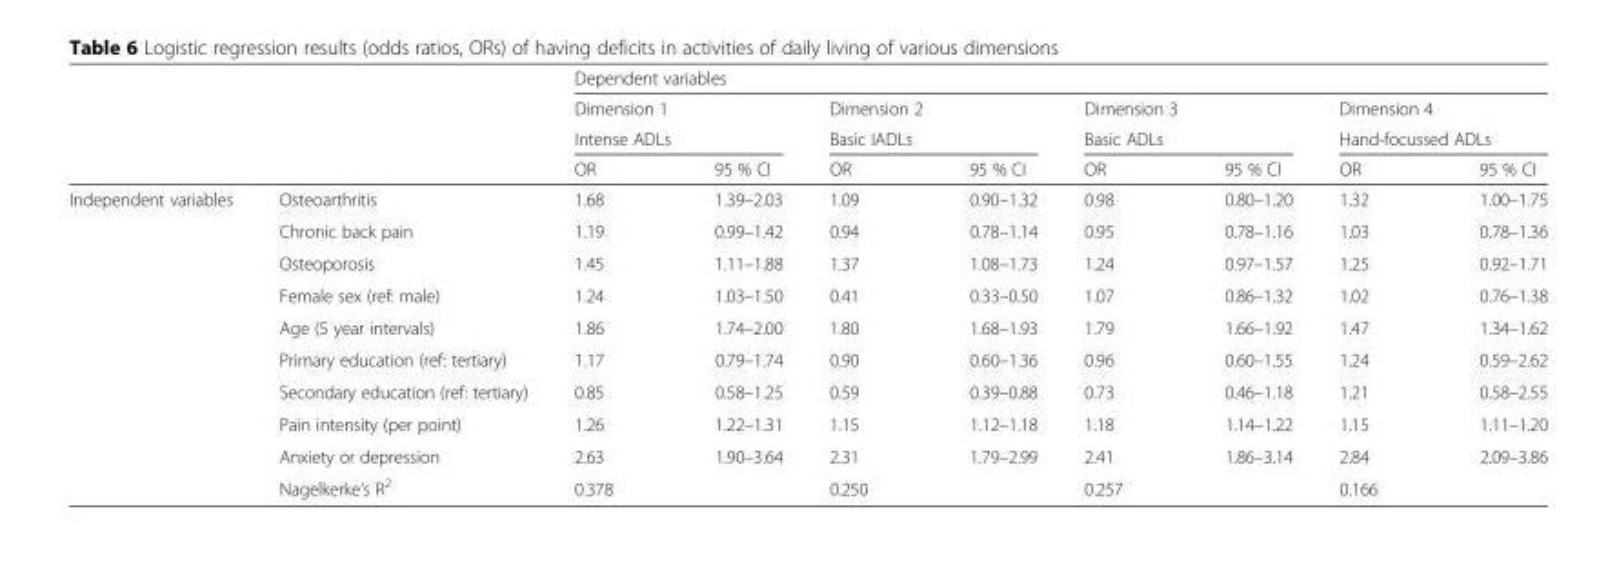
<table><thead><tr><td rowspan="4"></td><td rowspan="4"></td><td colspan="8">Dependent variables</td></tr><tr><td>Dimension 1</td><td></td><td>Dimension 2</td><td></td><td>Dimension 3</td><td></td><td>Dimension 4</td><td></td></tr><tr><td colspan="2">Intense ADLs</td><td colspan="2">Basic IADLs</td><td colspan="2">Basic ADLs</td><td colspan="2">Hand-focussed ADLs</td></tr><tr><td>OR</td><td>95 % CI</td><td>OR</td><td>95 % CI</td><td>OR</td><td>95 % CI</td><td>OR</td><td>95 % CI</td></tr></thead><tbody><tr><td rowspan="10">Independent variables</td><td>Osteoarthritis</td><td>1.68</td><td>1.39–2.03</td><td>1.09</td><td>0.90–1.32</td><td>0.98</td><td>0.80–1.20</td><td>1.32</td><td>1.00–1.75</td></tr><tr><td>Chronic back pain</td><td>1.19</td><td>0.99–1.42</td><td>0.94</td><td>0.78–1.14</td><td>0.95</td><td>0.78–1.16</td><td>1.03</td><td>0.78–1.36</td></tr><tr><td>Osteoporosis</td><td>1.45</td><td>1.11–1.88</td><td>1.37</td><td>1.08–1.73</td><td>1.24</td><td>0.97–1.57</td><td>1.25</td><td>0.92–1.71</td></tr><tr><td>Female sex (ref: male)</td><td>1.24</td><td>1.03–1.50</td><td>0.41</td><td>0.33–0.50</td><td>1.07</td><td>0.86–1.32</td><td>1.02</td><td>0.76–1.38</td></tr><tr><td>Age (5 year intervals)</td><td>1.86</td><td>1.74–2.00</td><td>1.80</td><td>1.68–1.93</td><td>1.79</td><td>1.66–1.92</td><td>1.47</td><td>1.34–1.62</td></tr><tr><td>Primary education (ref: tertiary)</td><td>1.17</td><td>0.79–1.74</td><td>0.90</td><td>0.60–1.36</td><td>0.96</td><td>0.60–1.55</td><td>1.24</td><td>0.59–2.62</td></tr><tr><td>Secondary education (ref: tertiary)</td><td>0.85</td><td>0.58–1.25</td><td>0.59</td><td>0.39–0.88</td><td>0.73</td><td>0.46–1.18</td><td>1.21</td><td>0.58–2.55</td></tr><tr><td>Pain intensity (per point)</td><td>1.26</td><td>1.22–1.31</td><td>1.15</td><td>1.12–1.18</td><td>1.18</td><td>1.14–1.22</td><td>1.15</td><td>1.11–1.20</td></tr><tr><td>Anxiety or depression</td><td>2.63</td><td>1.90–3.64</td><td>2.31</td><td>1.79–2.99</td><td>2.41</td><td>1.86–3.14</td><td>2.84</td><td>2.09–3.86</td></tr><tr><td>Nagelkerke’s R<sup>2</sup></td><td colspan="2">0.378</td><td colspan="2">0.250</td><td colspan="2">0.257</td><td colspan="2">0.166</td></tr></tbody></table>